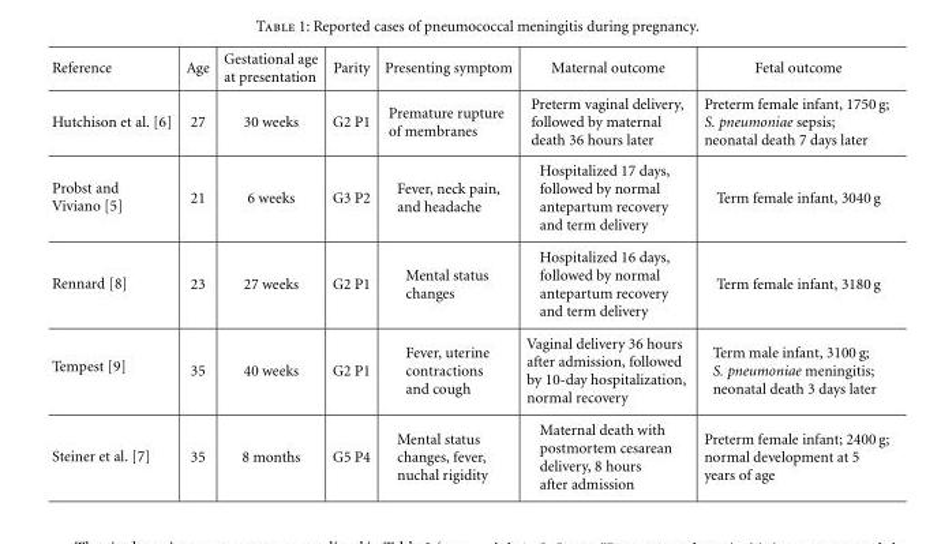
<table><tbody><tr><td>Reference</td><td>Age</td><td>Gestational age at presentation</td><td>Parity</td><td>Presenting symptom</td><td>Maternal outcome</td><td>Fetal outcome</td></tr><tr><td>Hutchison et al. [6]</td><td>27</td><td>30 weeks</td><td>G2 P1</td><td>Premature rupture of membranes</td><td>Preterm vaginal delivery, followed by maternal death 36 hours later</td><td>Preterm female infant, 1750 g; S. pneumoniae sepsis; neonatal death 7 days later</td></tr><tr><td>Probst and Viviano [5]</td><td>21</td><td>6 weeks</td><td>G3 P2</td><td>Fever, neck pain, and headache</td><td>Hospitalized 17 days, followed by normal antepartum recovery and term delivery</td><td>Term female infant, 3040 g</td></tr><tr><td>Rennard [8]</td><td>23</td><td>27 weeks</td><td>G2 P1</td><td>Mental status changes</td><td>Hospitalized 16 days, followed by normal antepartum recovery and term delivery</td><td>Term female infant, 3180 g</td></tr><tr><td>Tempest [9]</td><td>35</td><td>40 weeks</td><td>G2 P1</td><td>Fever, uterine contractions and cough</td><td>Vaginal delivery 36 hours after admission, followed by 10-day hospitalization, normal recovery</td><td>Term male infant, 3100 g; S. pneumoniae meningitis; neonatal death 3 days later</td></tr><tr><td>Steiner et al. [7]</td><td>35</td><td>8 months</td><td>G5 P4</td><td>Mental status changes, fever, nuchal rigidity</td><td>Maternal death with postmortem cesarean delivery, 8 hours after admission</td><td>Preterm female infant; 2400 g; normal development at 5 years of age</td></tr></tbody></table>